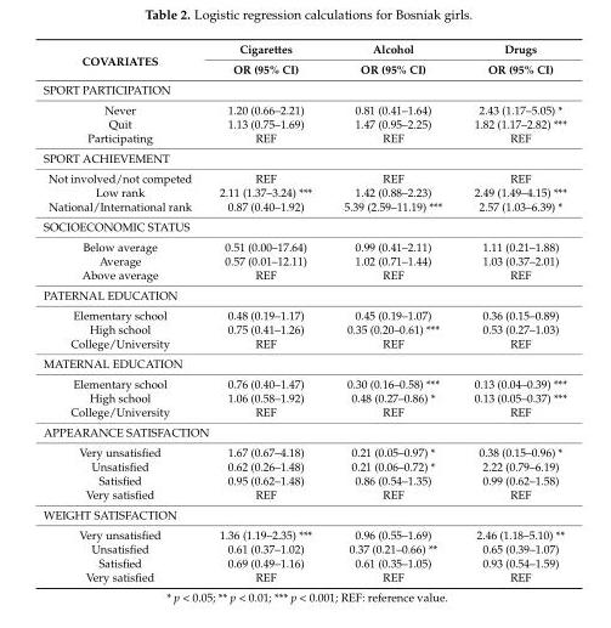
<table><thead><tr><td rowspan="2">COVARIATES</td><td rowspan="2">Cigarettes OR (95% CI)</td><td rowspan="2">Alcohol OR (95% CI)</td><td rowspan="2">Drugs OR (95% CI)</td></tr><tr></tr></thead><tbody><tr><td colspan="4">SPORT PARTICIPATION</td></tr><tr><td>Never</td><td>1.20 (0.66–2.21)</td><td>0.81 (0.41–1.64)</td><td>2.43 (1.17–5.05) *</td></tr><tr><td>Quit</td><td>1.13 (0.75–1.69)</td><td>1.47 (0.95–2.25)</td><td>1.82 (1.17–2.82) ***</td></tr><tr><td>Participating</td><td>REF</td><td>REF</td><td>REF</td></tr><tr><td colspan="4">SPORT ACHIEVEMENT</td></tr><tr><td>Not involved/not competed</td><td>REF</td><td>REF</td><td>REF</td></tr><tr><td>Low rank</td><td>2.11 (1.37–3.24) ***</td><td>1.42 (0.88–2.23)</td><td>2.49 (1.49–4.15) ***</td></tr><tr><td>National/International rank</td><td>0.87 (0.40–1.92)</td><td>5.39 (2.59–11.19) ***</td><td>2.57 (1.03–6.39) *</td></tr><tr><td colspan="4">SOCIOECONOMIC STATUS</td></tr><tr><td>Below average</td><td>0.51 (0.00–17.64)</td><td>0.99 (0.41–2.11)</td><td>1.11 (0.21–1.88)</td></tr><tr><td>Average</td><td>0.57 (0.01–12.11)</td><td>1.02 (0.71–1.44)</td><td>1.03 (0.37–2.01)</td></tr><tr><td>Above average</td><td>REF</td><td>REF</td><td>REF</td></tr><tr><td colspan="4">PATERNAL EDUCATION</td></tr><tr><td>Elementary school</td><td>0.48 (0.19–1.17)</td><td>0.45 (0.19–1.07)</td><td>0.36 (0.15–0.89)</td></tr><tr><td>High school</td><td>0.75 (0.41–1.26)</td><td>0.35 (0.20–0.61) ***</td><td>0.53 (0.27–1.03)</td></tr><tr><td>College/University</td><td>REF</td><td>REF</td><td>REF</td></tr><tr><td colspan="4">MATERNAL EDUCATION</td></tr><tr><td>Elementary school</td><td>0.76 (0.40–1.47)</td><td>0.30 (0.16–0.58) ***</td><td>0.13 (0.04–0.39) ***</td></tr><tr><td>High school</td><td>1.06 (0.58–1.92)</td><td>0.48 (0.27–0.86) *</td><td>0.13 (0.05–0.37) ***</td></tr><tr><td>College/University</td><td>REF</td><td>REF</td><td>REF</td></tr><tr><td colspan="4">APPEARANCE SATISFACTION</td></tr><tr><td>Very unsatisfied</td><td>1.67 (0.67–4.18)</td><td>0.21 (0.05–0.97) *</td><td>0.38 (0.15–0.96) *</td></tr><tr><td>Unsatisfied</td><td>0.62 (0.26–1.48)</td><td>0.21 (0.06–0.72) *</td><td>2.22 (0.79–6.19)</td></tr><tr><td>Satisfied</td><td>0.95 (0.62–1.48)</td><td>0.86 (0.54–1.35)</td><td>0.99 (0.62–1.58)</td></tr><tr><td>Very satisfied</td><td>REF</td><td>REF</td><td>REF</td></tr><tr><td colspan="4">WEIGHT SATISFACTION</td></tr><tr><td>Very unsatisfied</td><td>1.36 (1.19–2.35) ***</td><td>0.96 (0.55–1.69)</td><td>2.46 (1.18–5.10) **</td></tr><tr><td>Unsatisfied</td><td>0.61 (0.37–1.02)</td><td>0.37 (0.21–0.66) **</td><td>0.65 (0.39–1.07)</td></tr><tr><td>Satisfied</td><td>0.69 (0.49–1.16)</td><td>0.61 (0.35–1.05)</td><td>0.93 (0.54–1.59)</td></tr><tr><td>Very satisfied</td><td>REF</td><td>REF</td><td>REF</td></tr></tbody></table>